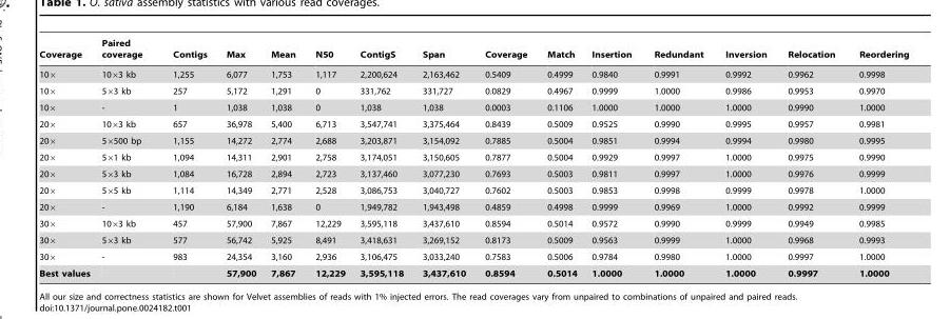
<table><thead><tr><td>Coverage</td><td>Paired coverage</td><td>Contigs</td><td>Max</td><td>Mean</td><td>N50</td><td>ContigS</td><td>Span</td><td>Coverage</td><td>Match</td><td>Insertion</td><td>Redundant</td><td>Inversion</td><td>Relocation</td><td>Reordering</td></tr></thead><tbody><tr><td>10×</td><td>10×3 kb</td><td>1,255</td><td>6,077</td><td>1,753</td><td>1,117</td><td>2,200,624</td><td>2,163,462</td><td>0.5409</td><td>0.4999</td><td>0.9840</td><td>0.9991</td><td>0.9992</td><td>0.9962</td><td>0.9998</td></tr><tr><td>10×</td><td>5×3 kb</td><td>257</td><td>5,172</td><td>1,291</td><td>0</td><td>331,762</td><td>331,727</td><td>0.0829</td><td>0.4967</td><td>0.9999</td><td>1.0000</td><td>0.9986</td><td>0.9953</td><td>0.9970</td></tr><tr><td>10×</td><td>-</td><td>1</td><td>1,038</td><td>1,038</td><td>0</td><td>1,038</td><td>1,038</td><td>0.0003</td><td>0.1106</td><td>1.0000</td><td>1.0000</td><td>1.0000</td><td>0.9990</td><td>1.0000</td></tr><tr><td>20×</td><td>10×3 kb</td><td>657</td><td>36,978</td><td>5,400</td><td>6,713</td><td>3,547,741</td><td>3,375,464</td><td>0.8439</td><td>0.5009</td><td>0.9525</td><td>0.9990</td><td>0.9995</td><td>0.9957</td><td>0.9981</td></tr><tr><td>20×</td><td>5×500 bp</td><td>1,155</td><td>14,272</td><td>2,774</td><td>2,688</td><td>3,203,871</td><td>3,154,092</td><td>0.7885</td><td>0.5004</td><td>0.9851</td><td>0.9994</td><td>0.9994</td><td>0.9980</td><td>0.9995</td></tr><tr><td>20×</td><td>5×1 kb</td><td>1,094</td><td>14,311</td><td>2,901</td><td>2,758</td><td>3,174,051</td><td>3,150,605</td><td>0.7877</td><td>0.5004</td><td>0.9929</td><td>0.9997</td><td>1.0000</td><td>0.9975</td><td>0.9990</td></tr><tr><td>20×</td><td>5×3 kb</td><td>1,084</td><td>16,728</td><td>2,894</td><td>2,723</td><td>3,137,460</td><td>3,077,230</td><td>0.7693</td><td>0.5003</td><td>0.9811</td><td>0.9997</td><td>1.0000</td><td>0.9976</td><td>0.9999</td></tr><tr><td>20×</td><td>5×5 kb</td><td>1,114</td><td>14,349</td><td>2,771</td><td>2,528</td><td>3,086,753</td><td>3,040,727</td><td>0.7602</td><td>0.5003</td><td>0.9853</td><td>0.9998</td><td>0.9999</td><td>0.9978</td><td>1.0000</td></tr><tr><td>20×</td><td>-</td><td>1,190</td><td>6,184</td><td>1,638</td><td>0</td><td>1,949,782</td><td>1,943,498</td><td>0.4859</td><td>0.4998</td><td>0.9999</td><td>0.9969</td><td>1.0000</td><td>0.9992</td><td>0.9999</td></tr><tr><td>30×</td><td>10×3 kb</td><td>457</td><td>57,900</td><td>7,867</td><td>12,229</td><td>3,595,118</td><td>3,437,610</td><td>0.8594</td><td>0.5014</td><td>0.9572</td><td>0.9990</td><td>0.9999</td><td>0.9949</td><td>0.9985</td></tr><tr><td>30×</td><td>5×3 kb</td><td>577</td><td>56,742</td><td>5,925</td><td>8,491</td><td>3,418,631</td><td>3,269,152</td><td>0.8173</td><td>0.5009</td><td>0.9563</td><td>0.9999</td><td>1.0000</td><td>0.9968</td><td>0.9993</td></tr><tr><td>30×</td><td>-</td><td>983</td><td>24,354</td><td>3,160</td><td>2,936</td><td>3,106,475</td><td>3,033,240</td><td>0.7583</td><td>0.5006</td><td>0.9784</td><td>0.9980</td><td>1.0000</td><td>0.9997</td><td>1.0000</td></tr><tr><td>Best values</td><td></td><td></td><td>57,900</td><td>7,867</td><td>12,229</td><td>3,595,118</td><td>3,437,610</td><td>0.8594</td><td>0.5014</td><td>1.0000</td><td>1.0000</td><td>1.0000</td><td>0.9997</td><td>1.0000</td></tr></tbody></table>